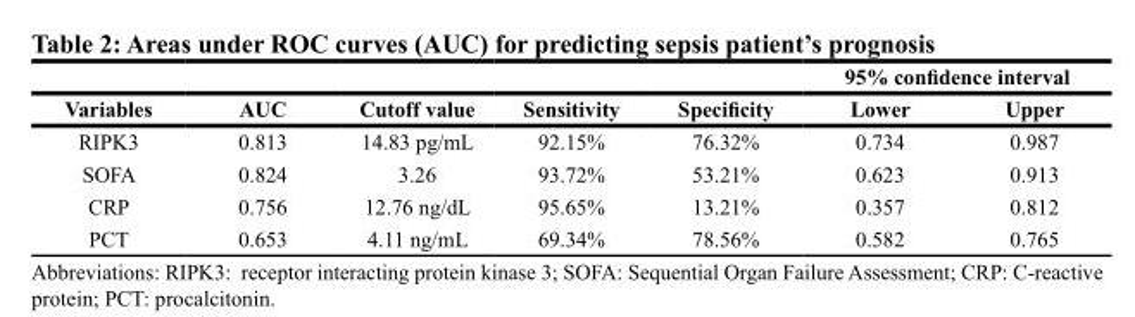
<table><thead><tr><td rowspan="2">Variables</td><td rowspan="2">AUC</td><td rowspan="2">Cutoff value</td><td rowspan="2">Sensitivity</td><td rowspan="2">Specificity</td><td colspan="2">95% confidence interval</td></tr><tr><td>Lower</td><td>Upper</td></tr></thead><tbody><tr><td>RIPK3</td><td>0.813</td><td>14.83 pg/mL</td><td>92.15%</td><td>76.32%</td><td>0.734</td><td>0.987</td></tr><tr><td>SOFA</td><td>0.824</td><td>3.26</td><td>93.72%</td><td>53.21%</td><td>0.623</td><td>0.913</td></tr><tr><td>CRP</td><td>0.756</td><td>12.76 ng/dL</td><td>95.65%</td><td>13.21%</td><td>0.357</td><td>0.812</td></tr><tr><td>PCT</td><td>0.653</td><td>4.11 ng/mL</td><td>69.34%</td><td>78.56%</td><td>0.582</td><td>0.765</td></tr></tbody></table>